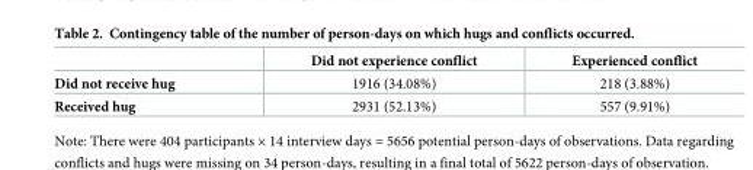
<table><thead><tr><td></td><td>Did not experience conflict</td><td>Experienced conflict</td></tr></thead><tbody><tr><td>Did not receive hug</td><td>1916 (34.08%)</td><td>218 (3.88%)</td></tr><tr><td>Received hug</td><td>2931 (52.13%)</td><td>557 (9.91%)</td></tr></tbody></table>